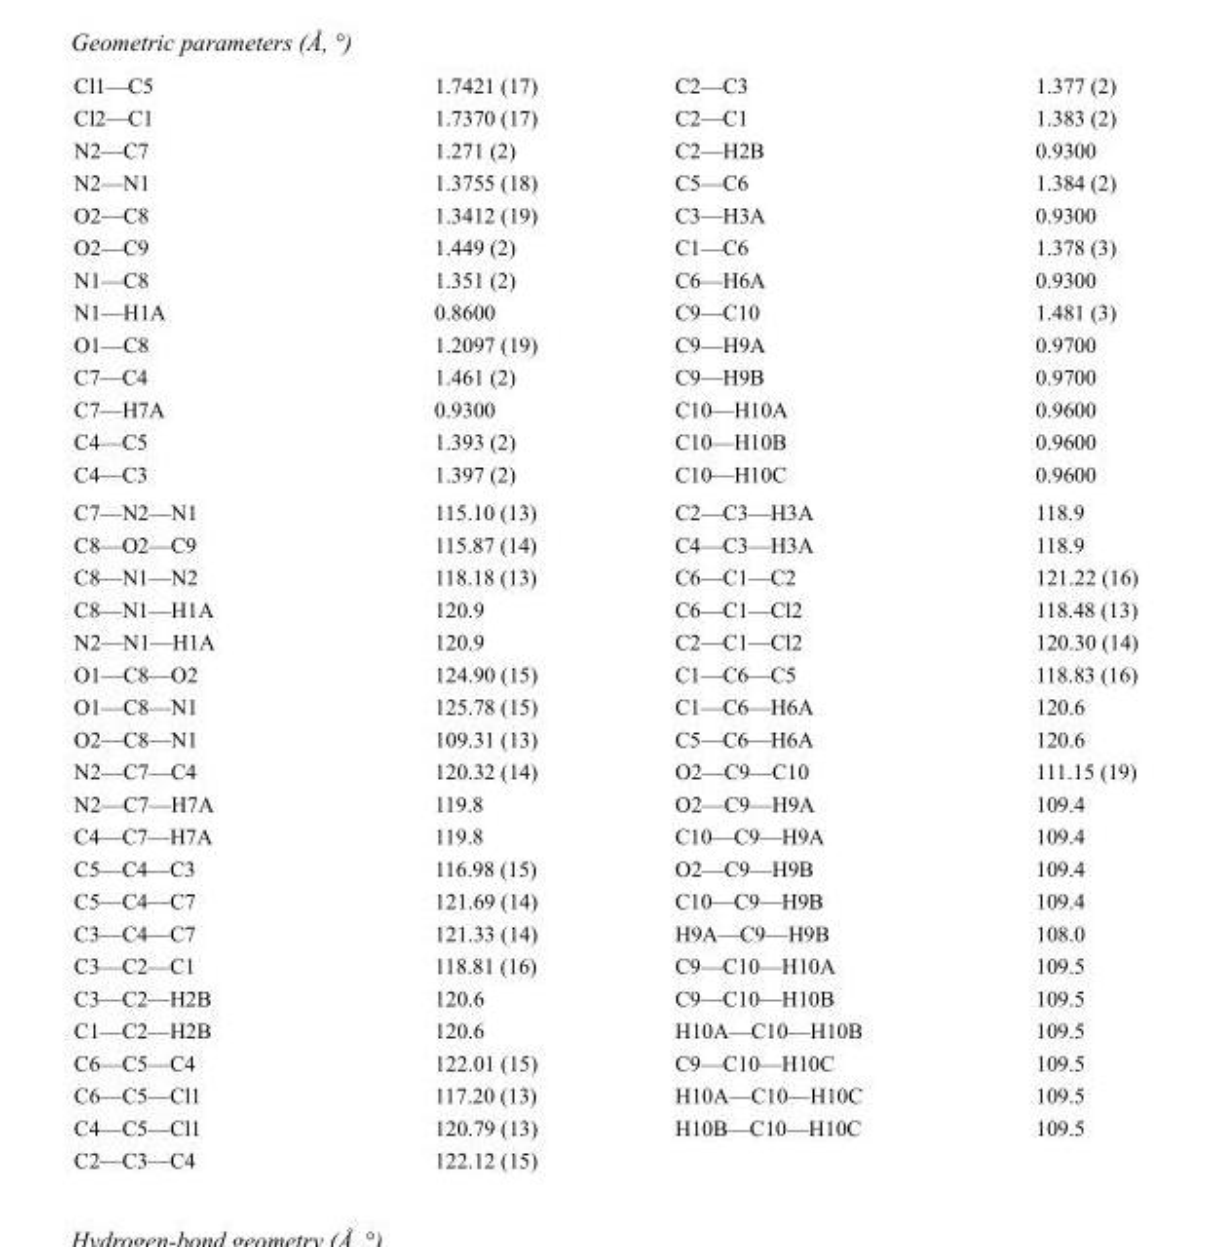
<table><tbody><tr><td>Cl1—C5</td><td>1.7421 (17)</td><td>C2—C3</td><td>1.377 (2)</td></tr><tr><td>Cl2—C1</td><td>1.7370 (17)</td><td>C2—C1</td><td>1.383 (2)</td></tr><tr><td>N2—C7</td><td>1.271 (2)</td><td>C2—H2B</td><td>0.9300</td></tr><tr><td>N2—N1</td><td>1.3755 (18)</td><td>C5—C6</td><td>1.384 (2)</td></tr><tr><td>O2—C8</td><td>1.3412 (19)</td><td>C3—H3A</td><td>0.9300</td></tr><tr><td>O2—C9</td><td>1.449 (2)</td><td>C1—C6</td><td>1.378 (3)</td></tr><tr><td>N1—C8</td><td>1.351 (2)</td><td>C6—H6A</td><td>0.9300</td></tr><tr><td>N1—H1A</td><td>0.8600</td><td>C9—C10</td><td>1.481 (3)</td></tr><tr><td>O1—C8</td><td>1.2097 (19)</td><td>C9—H9A</td><td>0.9700</td></tr><tr><td>C7—C4</td><td>1.461 (2)</td><td>C9—H9B</td><td>0.9700</td></tr><tr><td>C7—H7A</td><td>0.9300</td><td>C10—H10A</td><td>0.9600</td></tr><tr><td>C4—C5</td><td>1.393 (2)</td><td>C10—H10B</td><td>0.9600</td></tr><tr><td>C4—C3</td><td>1.397 (2)</td><td>C10—H10C</td><td>0.9600</td></tr><tr><td>C7—N2—N1</td><td>115.10 (13)</td><td>C2—C3—H3A</td><td>118.9</td></tr><tr><td>C8—O2—C9</td><td>115.87 (14)</td><td>C4—C3—H3A</td><td>118.9</td></tr><tr><td>C8—N1—N2</td><td>118.18 (13)</td><td>C6—C1—C2</td><td>121.22 (16)</td></tr><tr><td>C8—N1—H1A</td><td>120.9</td><td>C6—C1—Cl2</td><td>118.48 (13)</td></tr><tr><td>N2—N1—H1A</td><td>120.9</td><td>C2—C1—Cl2</td><td>120.30 (14)</td></tr><tr><td>O1—C8—O2</td><td>124.90 (15)</td><td>C1—C6—C5</td><td>118.83 (16)</td></tr><tr><td>O1—C8—N1</td><td>125.78 (15)</td><td>C1—C6—H6A</td><td>120.6</td></tr><tr><td>O2—C8—N1</td><td>109.31 (13)</td><td>C5—C6—H6A</td><td>120.6</td></tr><tr><td>N2—C7—C4</td><td>120.32 (14)</td><td>O2—C9—C10</td><td>111.15 (19)</td></tr><tr><td>N2—C7—H7A</td><td>119.8</td><td>O2—C9—H9A</td><td>109.4</td></tr><tr><td>C4—C7—H7A</td><td>119.8</td><td>C10—C9—H9A</td><td>109.4</td></tr><tr><td>C5—C4—C3</td><td>116.98 (15)</td><td>O2—C9—H9B</td><td>109.4</td></tr><tr><td>C5—C4—C7</td><td>121.69 (14)</td><td>C10—C9—H9B</td><td>109.4</td></tr><tr><td>C3—C4—C7</td><td>121.33 (14)</td><td>H9A—C9—H9B</td><td>108.0</td></tr><tr><td>C3—C2—C1</td><td>118.81 (16)</td><td>C9—C10—H10A</td><td>109.5</td></tr><tr><td>C3—C2—H2B</td><td>120.6</td><td>C9—C10—H10B</td><td>109.5</td></tr><tr><td>C1—C2—H2B</td><td>120.6</td><td>H10A—C10—H10B</td><td>109.5</td></tr><tr><td>C6—C5—C4</td><td>122.01 (15)</td><td>C9—C10—H10C</td><td>109.5</td></tr><tr><td>C6—C5—Cl1</td><td>117.20 (13)</td><td>H10A—C10—H10C</td><td>109.5</td></tr><tr><td>C4—C5—Cl1</td><td>120.79 (13)</td><td>H10B—C10—H10C</td><td>109.5</td></tr><tr><td>C2—C3—C4</td><td>122.12 (15)</td><td></td><td></td></tr></tbody></table>